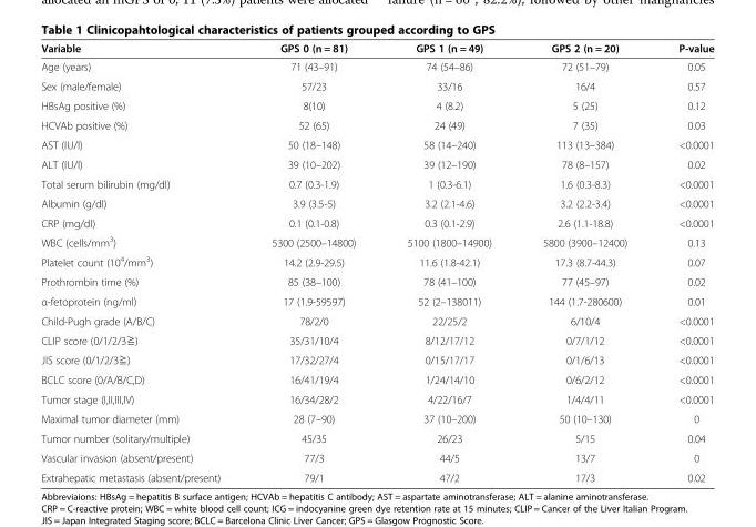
<table><thead><tr><td>Variable</td><td>GPS 0 (n = 81)</td><td>GPS 1 (n = 49)</td><td>GPS 2 (n = 20)</td><td>P-value</td></tr></thead><tbody><tr><td>Age (years)</td><td>71 (43–91)</td><td>74 (54–86)</td><td>72 (51–79)</td><td>0.05</td></tr><tr><td>Sex (male/female)</td><td>57/23</td><td>33/16</td><td>16/4</td><td>0.57</td></tr><tr><td>HBsAg positive (%)</td><td>8(10)</td><td>4 (8.2)</td><td>5 (25)</td><td>0.12</td></tr><tr><td>HCVAb positive (%)</td><td>52 (65)</td><td>24 (49)</td><td>7 (35)</td><td>0.03</td></tr><tr><td>AST (IU/l)</td><td>50 (18–148)</td><td>58 (14–240)</td><td>113 (13–384)</td><td>&lt;0.0001</td></tr><tr><td>ALT (IU/l)</td><td>39 (10–202)</td><td>39 (12–190)</td><td>78 (8–157)</td><td>0.02</td></tr><tr><td>Total serum bilirubin (mg/dl)</td><td>0.7 (0.3-1.9)</td><td>1 (0.3-6.1)</td><td>1.6 (0.3-8.3)</td><td>&lt;0.0001</td></tr><tr><td>Albumin (g/dl)</td><td>3.9 (3.5-5)</td><td>3.2 (2.1-4.6)</td><td>3.2 (2.2-3.4)</td><td>&lt;0.0001</td></tr><tr><td>CRP (mg/dl)</td><td>0.1 (0.1-0.8)</td><td>0.3 (0.1-2.9)</td><td>2.6 (1.1-18.8)</td><td>&lt;0.0001</td></tr><tr><td>WBC (cells/mm<sup>3</sup>)</td><td>5300 (2500–14800)</td><td>5100 (1800–14900)</td><td>5800 (3900–12400)</td><td>0.13</td></tr><tr><td>Platelet count (10<sup>4</sup>/mm<sup>3</sup>)</td><td>14.2 (2.9-29.5)</td><td>11.6 (1.8-42.1)</td><td>17.3 (8.7-44.3)</td><td>0.07</td></tr><tr><td>Prothrombin time (%)</td><td>85 (38–100)</td><td>78 (41–100)</td><td>77 (45–97)</td><td>0.02</td></tr><tr><td>α-fetoprotein (ng/ml)</td><td>17 (1.9-59597)</td><td>52 (2–138011)</td><td>144 (1.7-280600)</td><td>0.01</td></tr><tr><td>Child-Pugh grade (A/B/C)</td><td>78/2/0</td><td>22/25/2</td><td>6/10/4</td><td>&lt;0.0001</td></tr><tr><td>CLIP score (0/1/2/3≧)</td><td>35/31/10/4</td><td>8/12/17/12</td><td>0/7/1/12</td><td>&lt;0.0001</td></tr><tr><td>JIS score (0/1/2/3≧)</td><td>17/32/27/4</td><td>0/15/17/17</td><td>0/1/6/13</td><td>&lt;0.0001</td></tr><tr><td>BCLC score (0/A/B/C,D)</td><td>16/41/19/4</td><td>1/24/14/10</td><td>0/6/2/12</td><td>&lt;0.0001</td></tr><tr><td>Tumor stage (І,ІІ,ІІІ,ІV)</td><td>16/34/28/2</td><td>4/22/16/7</td><td>1/4/4/11</td><td>&lt;0.0001</td></tr><tr><td>Maximal tumor diameter (mm)</td><td>28 (7–90)</td><td>37 (10–200)</td><td>50 (10–130)</td><td>0</td></tr><tr><td>Tumor number (solitary/multiple)</td><td>45/35</td><td>26/23</td><td>5/15</td><td>0.04</td></tr><tr><td>Vascular invasion (absent/present)</td><td>77/3</td><td>44/5</td><td>13/7</td><td>0</td></tr><tr><td>Extrahepatic metastasis (absent/present)</td><td>79/1</td><td>47/2</td><td>17/3</td><td>0.02</td></tr></tbody></table>